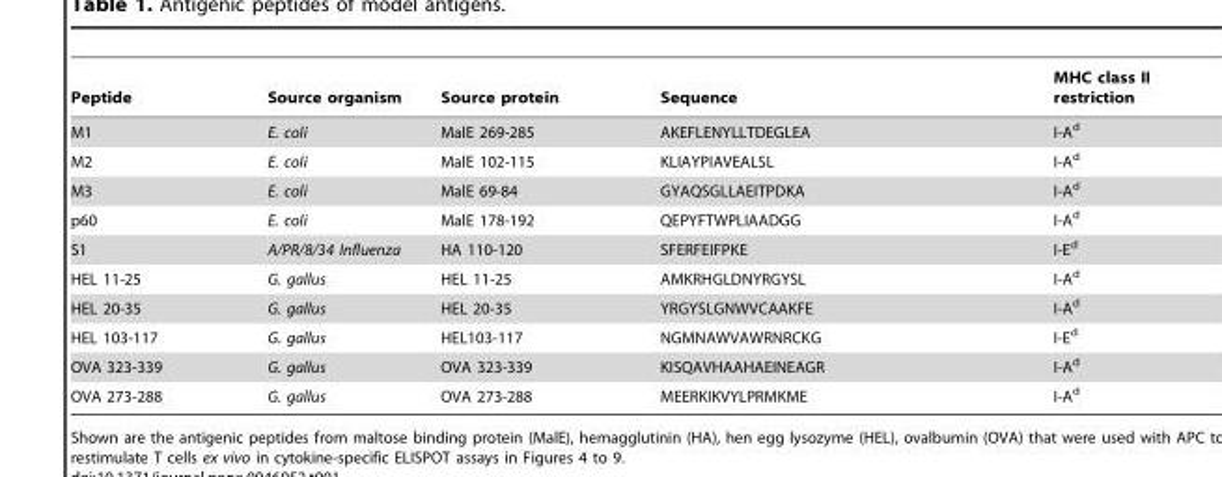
<table><thead><tr><td>Peptide</td><td>Source organism</td><td>Source protein</td><td>Sequence</td><td>MHC class II restriction</td></tr></thead><tbody><tr><td>M1</td><td>E. coli</td><td>MalE 269-285</td><td>AKEFLENYLLTDEGLEA</td><td>I-A<sup>d</sup></td></tr><tr><td>M2</td><td>E. coli</td><td>MalE 102-115</td><td>KLIAYPIAVEALSL</td><td>I-A<sup>d</sup></td></tr><tr><td>M3</td><td>E. coli</td><td>MalE 69-84</td><td>GYAQSGLLAEITPDKA</td><td>I-A<sup>d</sup></td></tr><tr><td>p60</td><td>E. coli</td><td>MalE 178-192</td><td>QEPYFTWPLIAADGG</td><td>I-A<sup>d</sup></td></tr><tr><td>S1</td><td>A/PR/8/34 Influenza</td><td>HA 110-120</td><td>SFERFEIFPKE</td><td>I-E<sup>d</sup></td></tr><tr><td>HEL 11-25</td><td>G. gallus</td><td>HEL 11-25</td><td>AMKRHGLDNYRGYSL</td><td>I-A<sup>d</sup></td></tr><tr><td>HEL 20-35</td><td>G. gallus</td><td>HEL 20-35</td><td>YRGYSLGNWVCAAKFE</td><td>I-A<sup>d</sup></td></tr><tr><td>HEL 103-117</td><td>G. gallus</td><td>HEL103-117</td><td>NGMNAWVAWRNRCKG</td><td>I-E<sup>d</sup></td></tr><tr><td>OVA 323-339</td><td>G. gallus</td><td>OVA 323-339</td><td>KISQAVHAAHAEINEAGR</td><td>I-A<sup>d</sup></td></tr><tr><td>OVA 273-288</td><td>G. gallus</td><td>OVA 273-288</td><td>MEERKIKVYLPRMKME</td><td>I-A<sup>d</sup></td></tr></tbody></table>